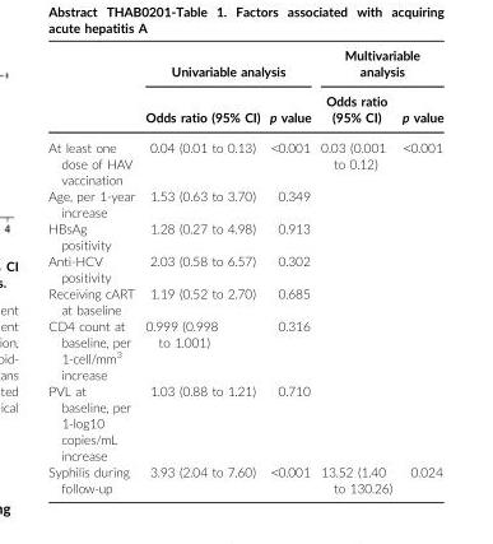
<table><thead><tr><td rowspan="2"></td><td colspan="2">Univariable analysis</td><td colspan="2">Multivariable analysis</td></tr><tr><td>Odds ratio (95% CI)</td><td>p value</td><td>Odds ratio (95% CI)</td><td>p value</td></tr></thead><tbody><tr><td>At least one dose of HAV vaccination</td><td>0.04 (0.01 to 0.13)</td><td>&lt;0.001</td><td>0.03 (0.001 to 0.12)</td><td>&lt;0.001</td></tr><tr><td>Age, per 1-year increase</td><td>1.53 (0.63 to 3.70)</td><td>0.349</td><td></td><td></td></tr><tr><td>HBsAg positivity</td><td>1.28 (0.27 to 4.98)</td><td>0.913</td><td></td><td></td></tr><tr><td>Anti-HCV positivity</td><td>2.03 (0.58 to 6.57)</td><td>0.302</td><td></td><td></td></tr><tr><td>Receiving cART at baseline</td><td>1.19 (0.52 to 2.70)</td><td>0.685</td><td></td><td></td></tr><tr><td>CD4 count at baseline, per 1-cell/mm<sup>3</sup> increase</td><td>0.999 (0.998 to 1.001)</td><td>0.316</td><td></td><td></td></tr><tr><td>PVL at baseline, per 1-log10 copies/mL increase</td><td>1.03 (0.88 to 1.21)</td><td>0.710</td><td></td><td></td></tr><tr><td>Syphilis during follow-up</td><td>3.93 (2.04 to 7.60)</td><td>&lt;0.001</td><td>13.52 (1.40 to 130.26)</td><td>0.024</td></tr></tbody></table>